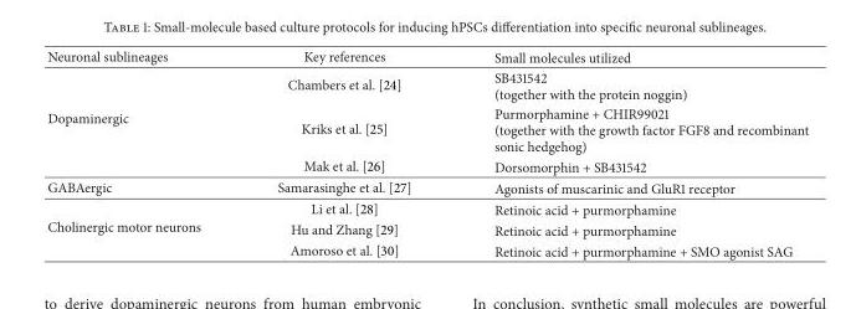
<table><thead><tr><td>Neuronal sublineages</td><td>Key references</td><td>Small molecules utilized</td></tr></thead><tbody><tr><td rowspan="3">Dopaminergic</td><td>Chambers et al. [24]</td><td>SB431542 (together with the protein noggin)</td></tr><tr><td>Kriks et al. [25]</td><td>Purmorphamine + CHIR99021 (together with the growth factor FGF8 and recombinant sonic hedgehog)</td></tr><tr><td>Mak et al. [26]</td><td>Dorsomorphin + SB431542</td></tr><tr><td>GABAergic</td><td>Samarasinghe et al. [27]</td><td>Agonists of muscarinic and GluR1 receptor</td></tr><tr><td rowspan="3">Cholinergic motor neurons</td><td>Li et al. [28]</td><td>Retinoic acid + purmorphamine</td></tr><tr><td>Hu and Zhang [29]</td><td>Retinoic acid + purmorphamine</td></tr><tr><td>Amoroso et al. [30]</td><td>Retinoic acid + purmorphamine + SMO agonist SAG</td></tr></tbody></table>